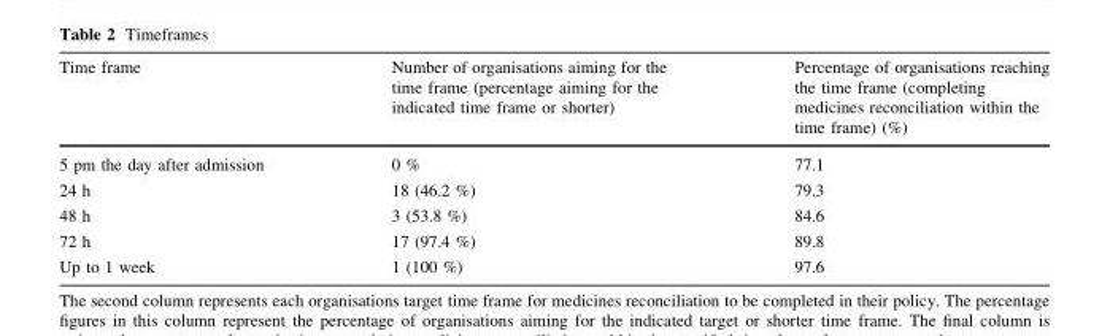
<table><thead><tr><td>Time frame</td><td>Number of organisations aiming for the time frame (percentage aiming for the indicated time frame or shorter)</td><td>Percentage of organisations reaching the time frame (completing medicines reconciliation within the time frame) (%)</td></tr></thead><tbody><tr><td>5 pm the day after admission</td><td>0 %</td><td>77.1</td></tr><tr><td>24 h</td><td>18 (46.2 %)</td><td>79.3</td></tr><tr><td>48 h</td><td>3 (53.8 %)</td><td>84.6</td></tr><tr><td>72 h</td><td>17 (97.4 %)</td><td>89.8</td></tr><tr><td>Up to 1 week</td><td>1 (100 %)</td><td>97.6</td></tr></tbody></table>